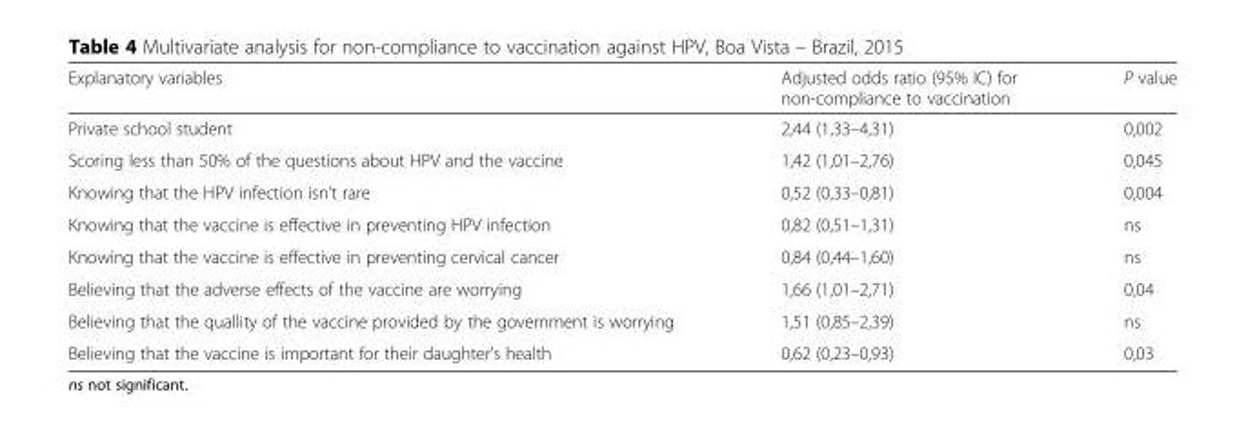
<table><thead><tr><td>Explanatory variables</td><td>Adjusted odds ratio (95% IC) for non-compliance to vaccination</td><td>P value</td></tr></thead><tbody><tr><td>Private school student</td><td>2,44 (1,33–4,31)</td><td>0,002</td></tr><tr><td>Scoring less than 50% of the questions about HPV and the vaccine</td><td>1,42 (1,01–2,76)</td><td>0,045</td></tr><tr><td>Knowing that the HPV infection isn’t rare</td><td>0,52 (0,33–0,81)</td><td>0,004</td></tr><tr><td>Knowing that the vaccine is effective in preventing HPV infection</td><td>0,82 (0,51–1,31)</td><td>ns</td></tr><tr><td>Knowing that the vaccine is effective in preventing cervical cancer</td><td>0,84 (0,44–1,60)</td><td>ns</td></tr><tr><td>Believing that the adverse effects of the vaccine are worrying</td><td>1,66 (1,01–2,71)</td><td>0,04</td></tr><tr><td>Believing that the quallity of the vaccine provided by the government is worrying</td><td>1,51 (0,85–2,39)</td><td>ns</td></tr><tr><td>Believing that the vaccine is important for their daughter’s health</td><td>0,62 (0,23–0,93)</td><td>0,03</td></tr></tbody></table>